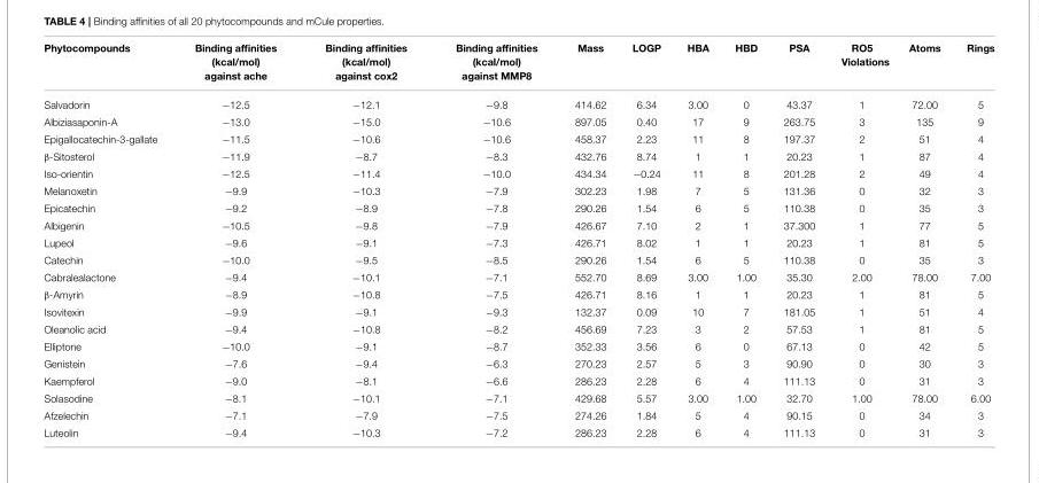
<table><thead><tr><td>Phytocompounds</td><td>Binding affinities (kcal/mol) against ache</td><td>Binding affinities (kcal/mol) against cox2</td><td>Binding affinities (kcal/mol) against MMP8</td><td>Mass</td><td>LOGP</td><td>HBA</td><td>HBD</td><td>PSA</td><td>RO5 Violations</td><td>Atoms</td><td>Rings</td></tr></thead><tbody><tr><td>Salvadorin</td><td>−12.5</td><td>−12.1</td><td>−9.8</td><td>414.62</td><td>6.34</td><td>3.00</td><td>0</td><td>43.37</td><td>1</td><td>72.00</td><td>5</td></tr><tr><td>Albiziasaponin-A</td><td>−13.0</td><td>−15.0</td><td>−10.6</td><td>897.05</td><td>0.40</td><td>17</td><td>9</td><td>263.75</td><td>3</td><td>135</td><td>9</td></tr><tr><td>Epigallocatechin-3-gallate</td><td>−11.5</td><td>−10.6</td><td>−10.6</td><td>458.37</td><td>2.23</td><td>11</td><td>8</td><td>197.37</td><td>2</td><td>51</td><td>4</td></tr><tr><td>β-Sitosterol</td><td>−11.9</td><td>−8.7</td><td>−8.3</td><td>432.76</td><td>8.74</td><td>1</td><td>1</td><td>20.23</td><td>1</td><td>87</td><td>4</td></tr><tr><td>Iso-orientin</td><td>−12.5</td><td>−11.4</td><td>−10.0</td><td>434.34</td><td>−0.24</td><td>11</td><td>8</td><td>201.28</td><td>2</td><td>49</td><td>4</td></tr><tr><td>Melanoxetin</td><td>−9.9</td><td>−10.3</td><td>−7.9</td><td>302.23</td><td>1.98</td><td>7</td><td>5</td><td>131.36</td><td>0</td><td>32</td><td>3</td></tr><tr><td>Epicatechin</td><td>−9.2</td><td>−8.9</td><td>−7.8</td><td>290.26</td><td>1.54</td><td>6</td><td>5</td><td>110.38</td><td>0</td><td>35</td><td>3</td></tr><tr><td>Albigenin</td><td>−10.5</td><td>−9.8</td><td>−7.9</td><td>426.67</td><td>7.10</td><td>2</td><td>1</td><td>37.300</td><td>1</td><td>77</td><td>5</td></tr><tr><td>Lupeol</td><td>−9.6</td><td>−9.1</td><td>−7.3</td><td>426.71</td><td>8.02</td><td>1</td><td>1</td><td>20.23</td><td>1</td><td>81</td><td>5</td></tr><tr><td>Catechin</td><td>−10.0</td><td>−9.5</td><td>−8.5</td><td>290.26</td><td>1.54</td><td>6</td><td>5</td><td>110.38</td><td>0</td><td>35</td><td>3</td></tr><tr><td>Cabralealactone</td><td>−9.4</td><td>−10.1</td><td>−7.1</td><td>552.70</td><td>8.69</td><td>3.00</td><td>1.00</td><td>35.30</td><td>2.00</td><td>78.00</td><td>7.00</td></tr><tr><td>β-Amyrin</td><td>−8.9</td><td>−10.8</td><td>−7.5</td><td>426.71</td><td>8.16</td><td>1</td><td>1</td><td>20.23</td><td>1</td><td>81</td><td>5</td></tr><tr><td>Isovitexin</td><td>−9.9</td><td>−9.1</td><td>−9.3</td><td>132.37</td><td>0.09</td><td>10</td><td>7</td><td>181.05</td><td>1</td><td>51</td><td>4</td></tr><tr><td>Oleanolic acid</td><td>−9.4</td><td>−10.8</td><td>−8.2</td><td>456.69</td><td>7.23</td><td>3</td><td>2</td><td>57.53</td><td>1</td><td>81</td><td>5</td></tr><tr><td>Elliptone</td><td>−10.0</td><td>−9.1</td><td>−8.7</td><td>352.33</td><td>3.56</td><td>6</td><td>0</td><td>67.13</td><td>0</td><td>42</td><td>5</td></tr><tr><td>Genistein</td><td>−7.6</td><td>−9.4</td><td>−6.3</td><td>270.23</td><td>2.57</td><td>5</td><td>3</td><td>90.90</td><td>0</td><td>30</td><td>3</td></tr><tr><td>Kaempferol</td><td>−9.0</td><td>−8.1</td><td>−6.6</td><td>286.23</td><td>2.28</td><td>6</td><td>4</td><td>111.13</td><td>0</td><td>31</td><td>3</td></tr><tr><td>Solasodine</td><td>−8.1</td><td>−10.1</td><td>−7.1</td><td>429.68</td><td>5.57</td><td>3.00</td><td>1.00</td><td>32.70</td><td>1.00</td><td>78.00</td><td>6.00</td></tr><tr><td>Afzelechin</td><td>−7.1</td><td>−7.9</td><td>−7.5</td><td>274.26</td><td>1.84</td><td>5</td><td>4</td><td>90.15</td><td>0</td><td>34</td><td>3</td></tr><tr><td>Luteolin</td><td>−9.4</td><td>−10.3</td><td>−7.2</td><td>286.23</td><td>2.28</td><td>6</td><td>4</td><td>111.13</td><td>0</td><td>31</td><td>3</td></tr></tbody></table>